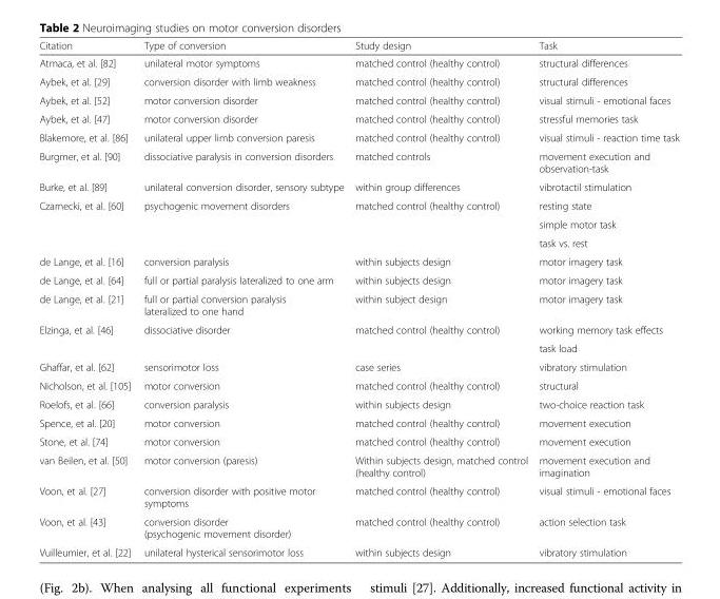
<table><thead><tr><td>Citation</td><td>Type of conversion</td><td>Study design</td><td>Task</td></tr></thead><tbody><tr><td>Atmaca, et al. [82]</td><td>unilateral motor symptoms</td><td>matched control (healthy control)</td><td>structural differences</td></tr><tr><td>Aybek, et al. [29]</td><td>conversion disorder with limb weakness</td><td>matched control (healthy control)</td><td>structural differences</td></tr><tr><td>Aybek, et al. [52]</td><td>motor conversion disorder</td><td>matched control (healthy control)</td><td>visual stimuli - emotional faces</td></tr><tr><td>Aybek, et al. [47]</td><td>motor conversion disorder</td><td>matched control (healthy control)</td><td>stressful memories task</td></tr><tr><td>Blakemore, et al. [86]</td><td>unilateral upper limb conversion paresis</td><td>matched control (healthy control)</td><td>visual stimuli - reaction time task</td></tr><tr><td>Burgmer, et al. [90]</td><td>dissociative paralysis in conversion disorders</td><td>matched controls</td><td>movement execution and observation-task</td></tr><tr><td>Burke, et al. [89]</td><td>unilateral conversion disorder, sensory subtype</td><td>within group differences</td><td>vibrotactil stimulation</td></tr><tr><td rowspan="3">Czarnecki, et al. [60]</td><td rowspan="3">psychogenic movement disorders</td><td rowspan="3">matched control (healthy control)</td><td>resting state</td></tr><tr><td>simple motor task</td></tr><tr><td>task vs. rest</td></tr><tr><td>de Lange, et al. [16]</td><td>conversion paralysis</td><td>within subjects design</td><td>motor imagery task</td></tr><tr><td>de Lange, et al. [64]</td><td>full or partial paralysis lateralized to one arm</td><td>within subjects design</td><td>motor imagery task</td></tr><tr><td>de Lange, et al. [21]</td><td>full or partial conversion paralysis lateralized to one hand</td><td>within subject design</td><td>motor imagery task</td></tr><tr><td rowspan="2">Elzinga, et al. [46]</td><td rowspan="2">dissociative disorder</td><td rowspan="2">matched control (healthy control)</td><td>working memory task effects</td></tr><tr><td>task load</td></tr><tr><td>Ghaffar, et al. [62]</td><td>sensorimotor loss</td><td>case series</td><td>vibratory stimulation</td></tr><tr><td>Nicholson, et al. [105]</td><td>motor conversion</td><td>matched control (healthy control)</td><td>structural</td></tr><tr><td>Roelofs, et al. [66]</td><td>conversion paralysis</td><td>within subjects design</td><td>two-choice reaction task</td></tr><tr><td>Spence, et al. [20]</td><td>motor conversion</td><td>matched control (healthy control)</td><td>movement execution</td></tr><tr><td>Stone, et al. [74]</td><td>motor conversion</td><td>matched control (healthy control)</td><td>movement execution</td></tr><tr><td>van Beilen, et al. [50]</td><td>motor conversion (paresis)</td><td>Within subjects design, matched control (healthy control)</td><td>movement execution and imagination</td></tr><tr><td>Voon, et al. [27]</td><td>conversion disorder with positive motor symptoms</td><td>matched control (healthy control)</td><td>visual stimuli - emotional faces</td></tr><tr><td>Voon, et al. [43]</td><td>conversion disorder (psychogenic movement disorder)</td><td>matched control (healthy control)</td><td>action selection task</td></tr><tr><td>Vuilleumier, et al. [22]</td><td>unilateral hysterical sensorimotor loss</td><td>within subjects design</td><td>vibratory stimulation</td></tr></tbody></table>